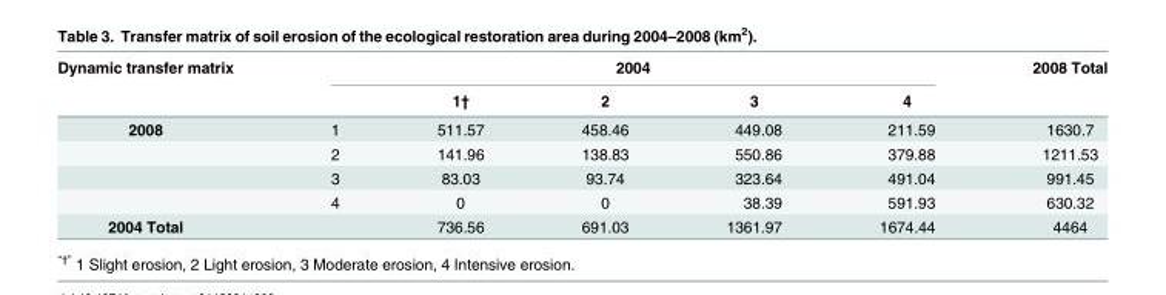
<table><thead><tr><td rowspan="2">Dynamic transfer matrix</td><td colspan="5">2004</td><td rowspan="2">2008 Total</td></tr><tr><td></td><td>1†</td><td>2</td><td>3</td><td>4</td></tr></thead><tbody><tr><td rowspan="4">2008</td><td>1</td><td>511.57</td><td>458.46</td><td>449.08</td><td>211.59</td><td>1630.7</td></tr><tr><td>2</td><td>141.96</td><td>138.83</td><td>550.86</td><td>379.88</td><td>1211.53</td></tr><tr><td>3</td><td>83.03</td><td>93.74</td><td>323.64</td><td>491.04</td><td>991.45</td></tr><tr><td>4</td><td>0</td><td>0</td><td>38.39</td><td>591.93</td><td>630.32</td></tr><tr><td>2004 Total</td><td></td><td>736.56</td><td>691.03</td><td>1361.97</td><td>1674.44</td><td>4464</td></tr></tbody></table>